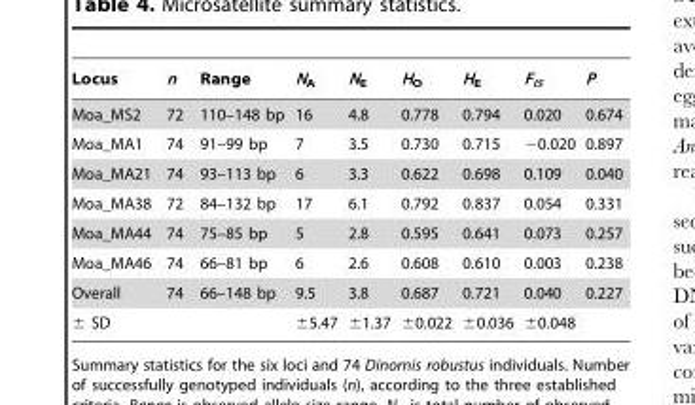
<table><thead><tr><td>Locus</td><td>n</td><td>Range</td><td>N<sub>A</sub></td><td>N<sub>E</sub></td><td>H<sub>O</sub></td><td>H<sub>E</sub></td><td>F<sub>IS</sub></td><td>P</td></tr></thead><tbody><tr><td>Moa_MS2</td><td>72</td><td>110–148 bp</td><td>16</td><td>4.8</td><td>0.778</td><td>0.794</td><td>0.020</td><td>0.674</td></tr><tr><td>Moa_MA1</td><td>74</td><td>91–99 bp</td><td>7</td><td>3.5</td><td>0.730</td><td>0.715</td><td>−0.020</td><td>0.897</td></tr><tr><td>Moa_MA21</td><td>74</td><td>93–113 bp</td><td>6</td><td>3.3</td><td>0.622</td><td>0.698</td><td>0.109</td><td>0.040</td></tr><tr><td>Moa_MA38</td><td>72</td><td>84–132 bp</td><td>17</td><td>6.1</td><td>0.792</td><td>0.837</td><td>0.054</td><td>0.331</td></tr><tr><td>Moa_MA44</td><td>74</td><td>75–85 bp</td><td>5</td><td>2.8</td><td>0.595</td><td>0.641</td><td>0.073</td><td>0.257</td></tr><tr><td>Moa_MA46</td><td>74</td><td>66–81 bp</td><td>6</td><td>2.6</td><td>0.608</td><td>0.610</td><td>0.003</td><td>0.238</td></tr><tr><td>Overall</td><td>74</td><td>66–148 bp</td><td>9.5</td><td>3.8</td><td>0.687</td><td>0.721</td><td>0.040</td><td>0.227</td></tr><tr><td>± SD</td><td></td><td></td><td>±5.47</td><td>±1.37</td><td>±0.022</td><td>±0.036</td><td>±0.048</td><td></td></tr></tbody></table>